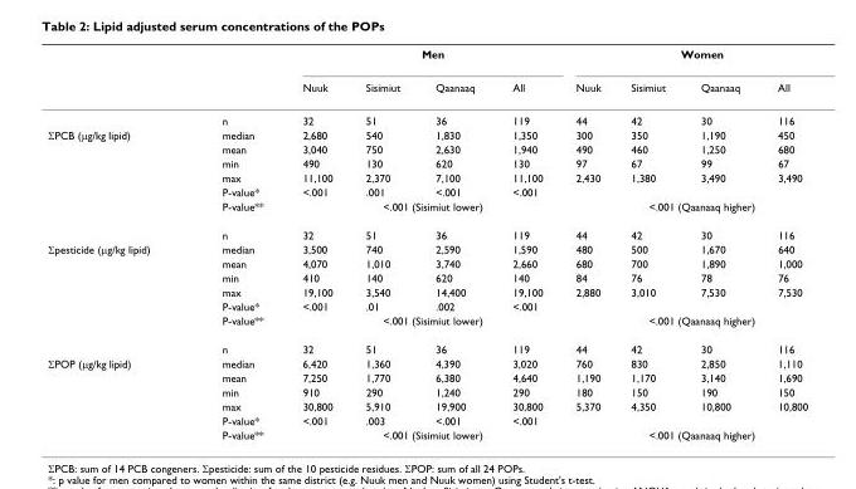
<table><thead><tr><td rowspan="2"></td><td rowspan="2"></td><td colspan="4">Men</td><td colspan="4">Women</td></tr><tr><td>Nuuk</td><td>Sisimiut</td><td>Qaanaaq</td><td>All</td><td>Nuuk</td><td>Sisimiut</td><td>Qaanaaq</td><td>All</td></tr></thead><tbody><tr><td></td><td>n</td><td>32</td><td>51</td><td>36</td><td>119</td><td>44</td><td>42</td><td>30</td><td>116</td></tr><tr><td rowspan="7">ΣPCB (μg/kg lipid)</td><td>median</td><td>2,680</td><td>540</td><td>1,830</td><td>1,350</td><td>300</td><td>350</td><td>1,190</td><td>450</td></tr><tr><td>mean</td><td>3,040</td><td>750</td><td>2,630</td><td>1,940</td><td>490</td><td>460</td><td>1,250</td><td>680</td></tr><tr><td>min</td><td>490</td><td>130</td><td>620</td><td>130</td><td>97</td><td>67</td><td>99</td><td>67</td></tr><tr><td>max</td><td>11,100</td><td>2,370</td><td>7,100</td><td>11,100</td><td>2,430</td><td>1,380</td><td>3,490</td><td>3,490</td></tr><tr><td>P-value*</td><td>&lt;.001</td><td>.001</td><td>&lt;.001</td><td>&lt;.001</td><td></td><td></td><td></td><td></td></tr><tr><td>P-value**</td><td colspan="4">&lt;.001 (Sisimiut lower)</td><td colspan="4">&lt;.001 (Qaanaaq higher)</td></tr><tr><td>n</td><td>32</td><td>51</td><td>36</td><td>119</td><td>44</td><td>42</td><td>30</td><td>116</td></tr><tr><td rowspan="7">Σpesticide (μg/kg lipid)</td><td>median</td><td>3,500</td><td>740</td><td>2,590</td><td>1,590</td><td>480</td><td>500</td><td>1,670</td><td>640</td></tr><tr><td>mean</td><td>4,070</td><td>1,010</td><td>3,740</td><td>2,660</td><td>680</td><td>700</td><td>1,890</td><td>1,000</td></tr><tr><td>min</td><td>410</td><td>140</td><td>620</td><td>140</td><td>84</td><td>76</td><td>78</td><td>76</td></tr><tr><td>max</td><td>19,100</td><td>3,540</td><td>14,400</td><td>19,100</td><td>2,880</td><td>3,010</td><td>7,530</td><td>7,530</td></tr><tr><td>P-value*</td><td>&lt;.001</td><td>.01</td><td>.002</td><td>&lt;.001</td><td></td><td></td><td></td><td></td></tr><tr><td>P-value**</td><td colspan="4">&lt;.001 (Sisimiut lower)</td><td colspan="4">&lt;.001 (Qaanaaq higher)</td></tr><tr><td>n</td><td>32</td><td>51</td><td>36</td><td>119</td><td>44</td><td>42</td><td>30</td><td>116</td></tr><tr><td rowspan="6">ΣPOP (μg/kg lipid)</td><td>median</td><td>6,420</td><td>1,360</td><td>4,390</td><td>3,020</td><td>760</td><td>830</td><td>2,850</td><td>1,110</td></tr><tr><td>mean</td><td>7,250</td><td>1,770</td><td>6,380</td><td>4,640</td><td>1,190</td><td>1,170</td><td>3,140</td><td>1,690</td></tr><tr><td>min</td><td>910</td><td>290</td><td>1,240</td><td>290</td><td>180</td><td>150</td><td>190</td><td>150</td></tr><tr><td>max</td><td>30,800</td><td>5,910</td><td>19,900</td><td>30,800</td><td>5,370</td><td>4,350</td><td>10,800</td><td>10,800</td></tr><tr><td>P-value*</td><td>&lt;.001</td><td>.003</td><td>&lt;.001</td><td>&lt;.001</td><td></td><td></td><td></td><td></td></tr><tr><td>P-value**</td><td colspan="4">&lt;.001 (Sisimiut lower)</td><td colspan="4">&lt;.001 (Qaanaaq higher)</td></tr></tbody></table>